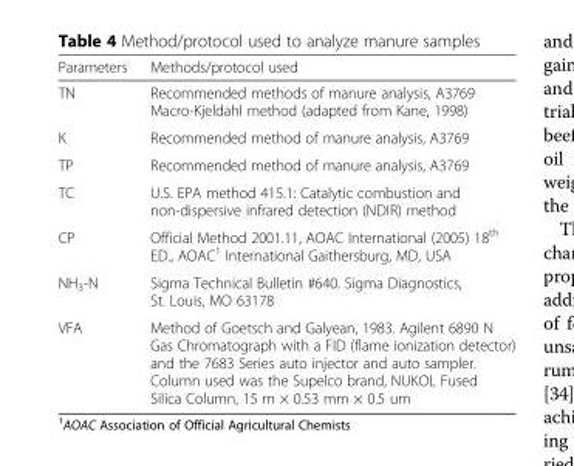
<table><thead><tr><td>Parameters</td><td>Methods/protocol used</td></tr></thead><tbody><tr><td>TN</td><td>Recommended methods of manure analysis, A3769 Macro-Kjeldahl method (adapted from Kane, 1998)</td></tr><tr><td>K</td><td>Recommended method of manure analysis, A3769</td></tr><tr><td>TP</td><td>Recommended method of manure analysis, A3769</td></tr><tr><td>TC</td><td>U.S. EPA method 415.1: Catalytic combustion and non-dispersive infrared detection (NDIR) method</td></tr><tr><td>CP</td><td>Official Method 2001.11, AOAC International (2005) 18<sup>th</sup> ED., AOAC<sup>1</sup> International Gaithersburg, MD, USA</td></tr><tr><td>NH<sub>3</sub>-N</td><td>Sigma Technical Bulletin #640. Sigma Diagnostics, St. Louis, MO 63178</td></tr><tr><td>VFA</td><td>Method of Goetsch and Galyean, 1983. Agilent 6890 N Gas Chromatograph with a FID (flame ionization detector) and the 7683 Series auto injector and auto sampler. Column used was the Supelco brand, NUKOL Fused Silica Column, 15 m × 0.53 mm × 0.5 um</td></tr></tbody></table>